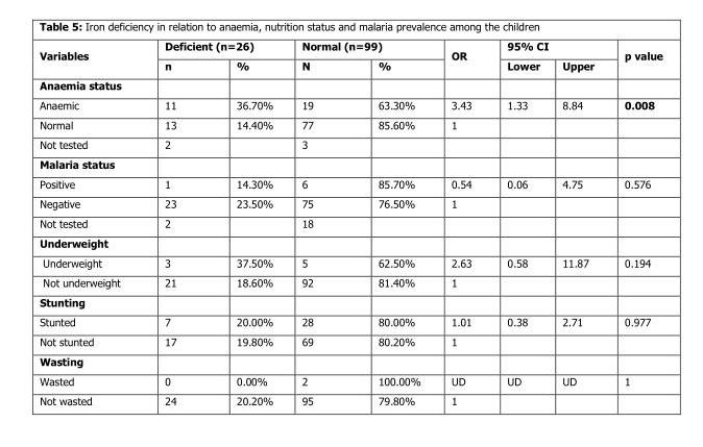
<table><thead><tr><td rowspan="2">Variables</td><td colspan="2">Deficient (n=26)</td><td colspan="2">Normal (n=99)</td><td rowspan="2">OR</td><td colspan="2">95% CI</td><td rowspan="2">p value</td></tr><tr><td>n</td><td>%</td><td>N</td><td>%</td><td>Lower</td><td>Upper</td></tr></thead><tbody><tr><td colspan="9">Anaemia status</td></tr><tr><td>Anaemic</td><td>11</td><td>36.70%</td><td>19</td><td>63.30%</td><td>3.43</td><td>1.33</td><td>8.84</td><td>0.008</td></tr><tr><td>Normal</td><td>13</td><td>14.40%</td><td>77</td><td>85.60%</td><td>1</td><td></td><td></td><td></td></tr><tr><td>Not tested</td><td>2</td><td></td><td>3</td><td></td><td></td><td></td><td></td><td></td></tr><tr><td colspan="9">Malaria status</td></tr><tr><td>Positive</td><td>1</td><td>14.30%</td><td>6</td><td>85.70%</td><td>0.54</td><td>0.06</td><td>4.75</td><td>0.576</td></tr><tr><td>Negative</td><td>23</td><td>23.50%</td><td>75</td><td>76.50%</td><td>1</td><td></td><td></td><td></td></tr><tr><td>Not tested</td><td>2</td><td></td><td>18</td><td></td><td></td><td></td><td></td><td></td></tr><tr><td colspan="9">Underweight</td></tr><tr><td>Underweight</td><td>3</td><td>37.50%</td><td>5</td><td>62.50%</td><td>2.63</td><td>0.58</td><td>11.87</td><td>0.194</td></tr><tr><td>Not underweight</td><td>21</td><td>18.60%</td><td>92</td><td>81.40%</td><td>1</td><td></td><td></td><td></td></tr><tr><td colspan="9">Stunting</td></tr><tr><td>Stunted</td><td>7</td><td>20.00%</td><td>28</td><td>80.00%</td><td>1.01</td><td>0.38</td><td>2.71</td><td>0.977</td></tr><tr><td>Not stunted</td><td>17</td><td>19.80%</td><td>69</td><td>80.20%</td><td>1</td><td></td><td></td><td></td></tr><tr><td colspan="9">Wasting</td></tr><tr><td>Wasted</td><td>0</td><td>0.00%</td><td>2</td><td>100.00%</td><td>UD</td><td>UD</td><td>UD</td><td>1</td></tr><tr><td>Not wasted</td><td>24</td><td>20.20%</td><td>95</td><td>79.80%</td><td>1</td><td></td><td></td><td></td></tr></tbody></table>